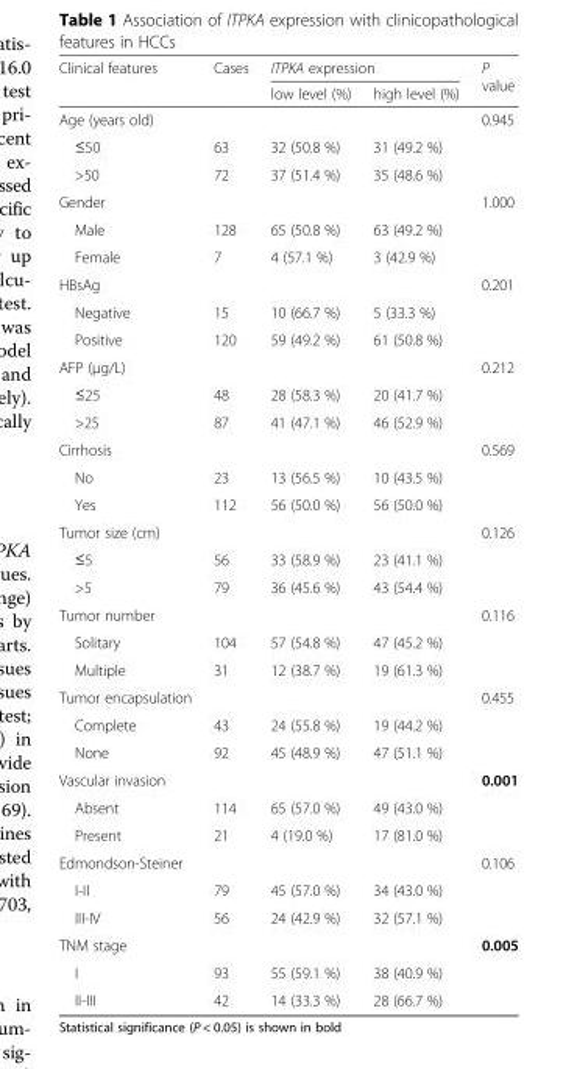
<table><thead><tr><td rowspan="2">Clinical features</td><td rowspan="2">Cases</td><td colspan="2">ITPKA expression</td><td rowspan="2">P value</td></tr><tr><td>low level (%)</td><td>high level (%)</td></tr></thead><tbody><tr><td>Age (years old)</td><td></td><td></td><td></td><td>0.945</td></tr><tr><td>≤50</td><td>63</td><td>32 (50.8 %)</td><td>31 (49.2 %)</td><td></td></tr><tr><td>&gt;50</td><td>72</td><td>37 (51.4 %)</td><td>35 (48.6 %)</td><td></td></tr><tr><td>Gender</td><td></td><td></td><td></td><td>1.000</td></tr><tr><td>Male</td><td>128</td><td>65 (50.8 %)</td><td>63 (49.2 %)</td><td></td></tr><tr><td>Female</td><td>7</td><td>4 (57.1 %)</td><td>3 (42.9 %)</td><td></td></tr><tr><td>HBsAg</td><td></td><td></td><td></td><td>0.201</td></tr><tr><td>Negative</td><td>15</td><td>10 (66.7 %)</td><td>5 (33.3 %)</td><td></td></tr><tr><td>Positive</td><td>120</td><td>59 (49.2 %)</td><td>61 (50.8 %)</td><td></td></tr><tr><td>AFP (μg/L)</td><td></td><td></td><td></td><td>0.212</td></tr><tr><td>≤25</td><td>48</td><td>28 (58.3 %)</td><td>20 (41.7 %)</td><td></td></tr><tr><td>&gt;25</td><td>87</td><td>41 (47.1 %)</td><td>46 (52.9 %)</td><td></td></tr><tr><td>Cirrhosis</td><td></td><td></td><td></td><td>0.569</td></tr><tr><td>No</td><td>23</td><td>13 (56.5 %)</td><td>10 (43.5 %)</td><td></td></tr><tr><td>Yes</td><td>112</td><td>56 (50.0 %)</td><td>56 (50.0 %)</td><td></td></tr><tr><td>Tumor size (cm)</td><td></td><td></td><td></td><td>0.126</td></tr><tr><td>≤5</td><td>56</td><td>33 (58.9 %)</td><td>23 (41.1 %)</td><td></td></tr><tr><td>&gt;5</td><td>79</td><td>36 (45.6 %)</td><td>43 (54.4 %)</td><td></td></tr><tr><td>Tumor number</td><td></td><td></td><td></td><td>0.116</td></tr><tr><td>Solitary</td><td>104</td><td>57 (54.8 %)</td><td>47 (45.2 %)</td><td></td></tr><tr><td>Multiple</td><td>31</td><td>12 (38.7 %)</td><td>19 (61.3 %)</td><td></td></tr><tr><td>Tumor encapsulation</td><td></td><td></td><td></td><td>0.455</td></tr><tr><td>Complete</td><td>43</td><td>24 (55.8 %)</td><td>19 (44.2 %)</td><td></td></tr><tr><td>None</td><td>92</td><td>45 (48.9 %)</td><td>47 (51.1 %)</td><td></td></tr><tr><td>Vascular invasion</td><td></td><td></td><td></td><td>0.001</td></tr><tr><td>Absent</td><td>114</td><td>65 (57.0 %)</td><td>49 (43.0 %)</td><td></td></tr><tr><td>Present</td><td>21</td><td>4 (19.0 %)</td><td>17 (81.0 %)</td><td></td></tr><tr><td>Edmondson-Steiner</td><td></td><td></td><td></td><td>0.106</td></tr><tr><td>I-II</td><td>79</td><td>45 (57.0 %)</td><td>34 (43.0 %)</td><td></td></tr><tr><td>III-IV</td><td>56</td><td>24 (42.9 %)</td><td>32 (57.1 %)</td><td></td></tr><tr><td>TNM stage</td><td></td><td></td><td></td><td>0.005</td></tr><tr><td>I</td><td>93</td><td>55 (59.1 %)</td><td>38 (40.9 %)</td><td></td></tr><tr><td>II-III</td><td>42</td><td>14 (33.3 %)</td><td>28 (66.7 %)</td><td></td></tr></tbody></table>